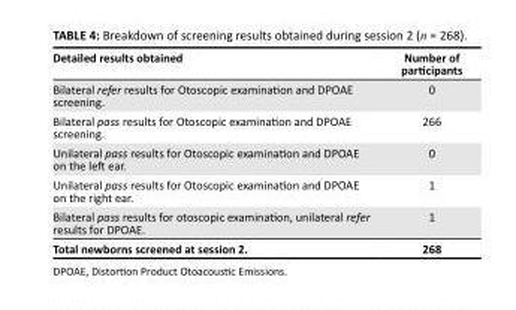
<table><thead><tr><td>Detailed results obtained</td><td>Number of participants</td></tr></thead><tbody><tr><td>Bilateral refer results for Otoscopic examination and DPOAE screening.</td><td>0</td></tr><tr><td>Bilateral pass results for Otoscopic examination and DPOAE screening.</td><td>266</td></tr><tr><td>Unilateral pass results for Otoscopic examination and DPOAE on the left ear.</td><td>0</td></tr><tr><td>Unilateral pass results for Otoscopic examination and DPOAE on the right ear.</td><td>1</td></tr><tr><td>Bilateral pass results for otoscopic examination, unilateral refer results for DPOAE.</td><td>1</td></tr><tr><td>Total newborns screened at session 2.</td><td>268</td></tr></tbody></table>